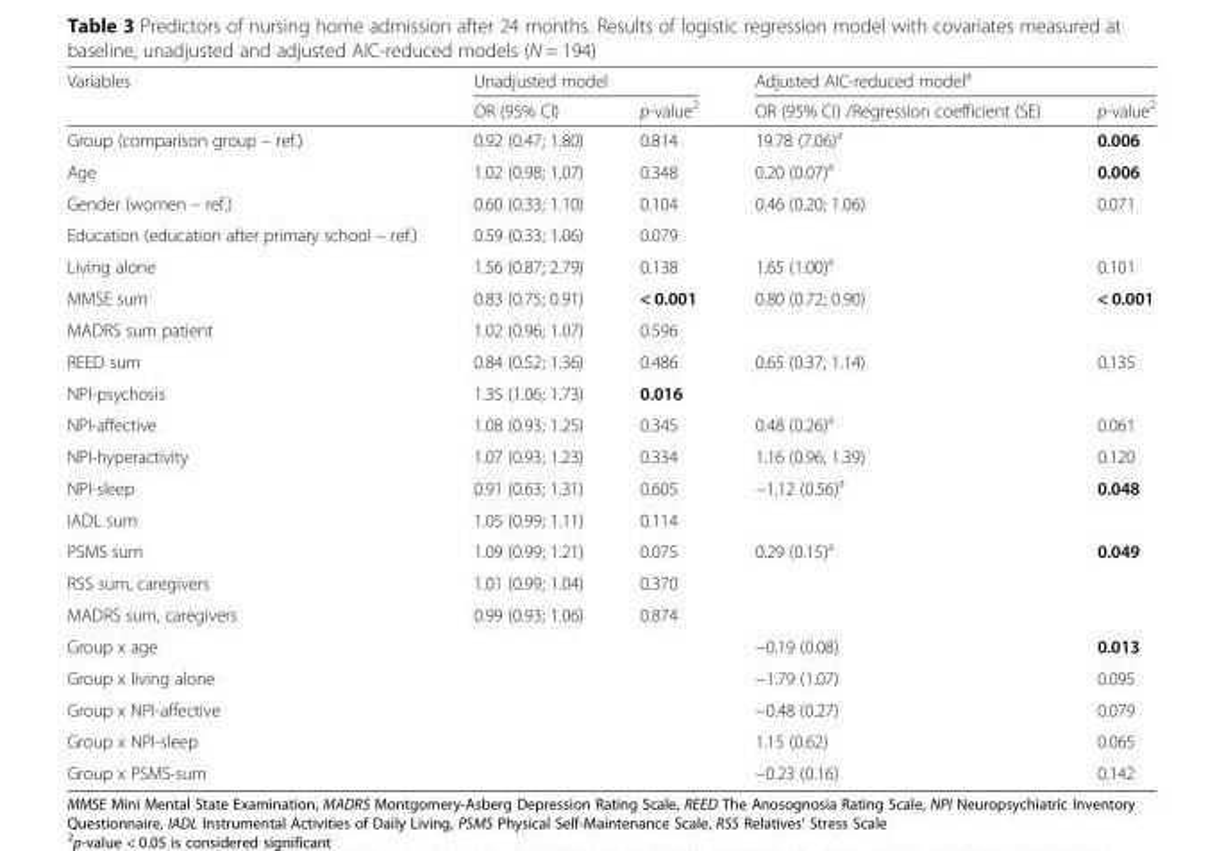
<table><thead><tr><td rowspan="2">Variables</td><td colspan="2">Unadjusted model</td><td colspan="2">Adjusted AIC-reduced model<sup>a</sup></td></tr><tr><td>OR (95% CI)</td><td>p-value<sup>2</sup></td><td>OR (95% CI) /Regression coefficient (SE)</td><td>p-value<sup>2</sup></td></tr></thead><tbody><tr><td>Group (comparison group – ref.)</td><td>0.92 (0.47; 1.80)</td><td>0.814</td><td>19.78 (7.06)<sup>a</sup></td><td>0.006</td></tr><tr><td>Age</td><td>1.02 (0.98; 1.07)</td><td>0.348</td><td>0.20 (0.07)<sup>a</sup></td><td>0.006</td></tr><tr><td>Gender (women – ref.)</td><td>0.60 (0.33; 1.10)</td><td>0.104</td><td>0.46 (0.20; 1.06)</td><td>0.071</td></tr><tr><td>Education (education after primary school – ref.)</td><td>0.59 (0.33; 1.06)</td><td>0.079</td><td></td><td></td></tr><tr><td>Living alone</td><td>1.56 (0.87; 2.79)</td><td>0.138</td><td>1.65 (1.00)<sup>a</sup></td><td>0.101</td></tr><tr><td>MMSE sum</td><td>0.83 (0.75; 0.91)</td><td>&lt; 0.001</td><td>0.80 (0.72; 0.90)</td><td>&lt; 0.001</td></tr><tr><td>MADRS sum patient</td><td>1.02 (0.96; 1.07)</td><td>0.596</td><td></td><td></td></tr><tr><td>REED sum</td><td>0.84 (0.52; 1.36)</td><td>0.486</td><td>0.65 (0.37; 1.14)</td><td>0.135</td></tr><tr><td>NPI-psychosis</td><td>1.35 (1.06; 1.73)</td><td>0.016</td><td></td><td></td></tr><tr><td>NPI-affective</td><td>1.08 (0.93; 1.25)</td><td>0.345</td><td>0.48 (0.26)<sup>a</sup></td><td>0.061</td></tr><tr><td>NPI-hyperactivity</td><td>1.07 (0.93; 1.23)</td><td>0.334</td><td>1.16 (0.96; 1.39)</td><td>0.120</td></tr><tr><td>NPI-sleep</td><td>0.91 (0.63; 1.31)</td><td>0.605</td><td>−1.12 (0.56)<sup>a</sup></td><td>0.048</td></tr><tr><td>IADL sum</td><td>1.05 (0.99; 1.11)</td><td>0.114</td><td></td><td></td></tr><tr><td>PSMS sum</td><td>1.09 (0.99; 1.21)</td><td>0.075</td><td>0.29 (0.15)<sup>a</sup></td><td>0.049</td></tr><tr><td>RSS sum, caregivers</td><td>1.01 (0.99; 1.04)</td><td>0.370</td><td></td><td></td></tr><tr><td>MADRS sum, caregivers</td><td>0.99 (0.93; 1.06)</td><td>0.874</td><td></td><td></td></tr><tr><td>Group x age</td><td></td><td></td><td>−0.19 (0.08)</td><td>0.013</td></tr><tr><td>Group x living alone</td><td></td><td></td><td>−1.79 (1.07)</td><td>0.095</td></tr><tr><td>Group x NPI-affective</td><td></td><td></td><td>−0.48 (0.27)</td><td>0.079</td></tr><tr><td>Group x NPI-sleep</td><td></td><td></td><td>1.15 (0.62)</td><td>0.065</td></tr><tr><td>Group x PSMS-sum</td><td></td><td></td><td>−0.23 (0.16)</td><td>0.142</td></tr></tbody></table>